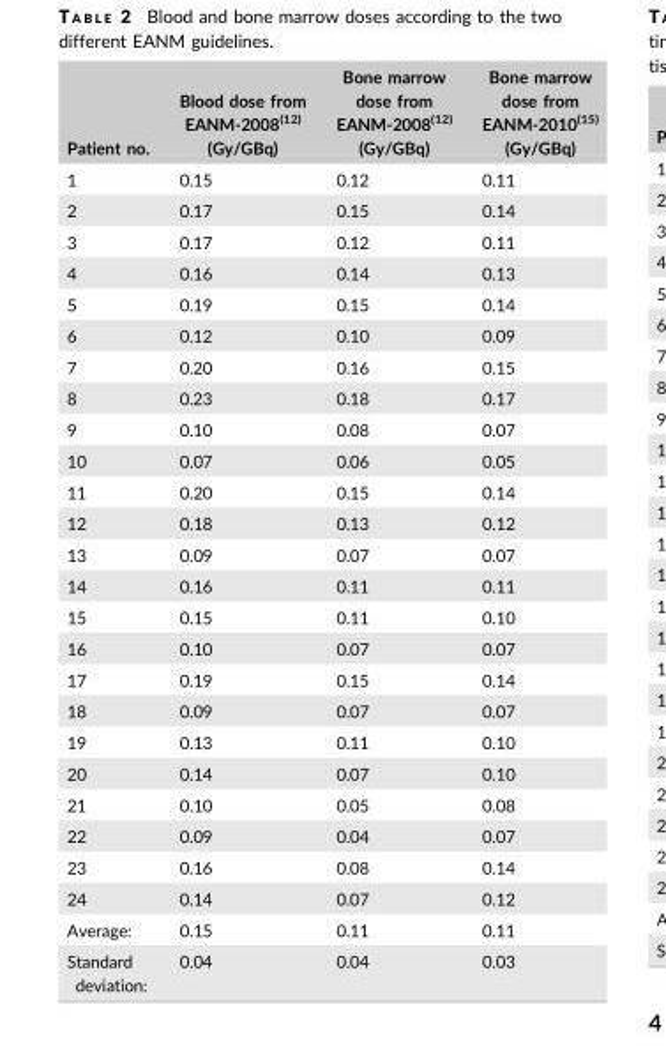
<table><thead><tr><td>Patient no.</td><td>Blood dose from EANM-2008<sup>(12)</sup> (Gy/GBq)</td><td>Bone marrow dose from EANM-2008<sup>(12)</sup> (Gy/GBq)</td><td>Bone marrow dose from EANM-2010<sup>(15)</sup> (Gy/GBq)</td></tr></thead><tbody><tr><td>1</td><td>0.15</td><td>0.12</td><td>0.11</td></tr><tr><td>2</td><td>0.17</td><td>0.15</td><td>0.14</td></tr><tr><td>3</td><td>0.17</td><td>0.12</td><td>0.11</td></tr><tr><td>4</td><td>0.16</td><td>0.14</td><td>0.13</td></tr><tr><td>5</td><td>0.19</td><td>0.15</td><td>0.14</td></tr><tr><td>6</td><td>0.12</td><td>0.10</td><td>0.09</td></tr><tr><td>7</td><td>0.20</td><td>0.16</td><td>0.15</td></tr><tr><td>8</td><td>0.23</td><td>0.18</td><td>0.17</td></tr><tr><td>9</td><td>0.10</td><td>0.08</td><td>0.07</td></tr><tr><td>10</td><td>0.07</td><td>0.06</td><td>0.05</td></tr><tr><td>11</td><td>0.20</td><td>0.15</td><td>0.14</td></tr><tr><td>12</td><td>0.18</td><td>0.13</td><td>0.12</td></tr><tr><td>13</td><td>0.09</td><td>0.07</td><td>0.07</td></tr><tr><td>14</td><td>0.16</td><td>0.11</td><td>0.11</td></tr><tr><td>15</td><td>0.15</td><td>0.11</td><td>0.10</td></tr><tr><td>16</td><td>0.10</td><td>0.07</td><td>0.07</td></tr><tr><td>17</td><td>0.19</td><td>0.15</td><td>0.14</td></tr><tr><td>18</td><td>0.09</td><td>0.07</td><td>0.07</td></tr><tr><td>19</td><td>0.13</td><td>0.11</td><td>0.10</td></tr><tr><td>20</td><td>0.14</td><td>0.07</td><td>0.10</td></tr><tr><td>21</td><td>0.10</td><td>0.05</td><td>0.08</td></tr><tr><td>22</td><td>0.09</td><td>0.04</td><td>0.07</td></tr><tr><td>23</td><td>0.16</td><td>0.08</td><td>0.14</td></tr><tr><td>24</td><td>0.14</td><td>0.07</td><td>0.12</td></tr><tr><td>Average:</td><td>0.15</td><td>0.11</td><td>0.11</td></tr><tr><td>Standard deviation:</td><td>0.04</td><td>0.04</td><td>0.03</td></tr></tbody></table>